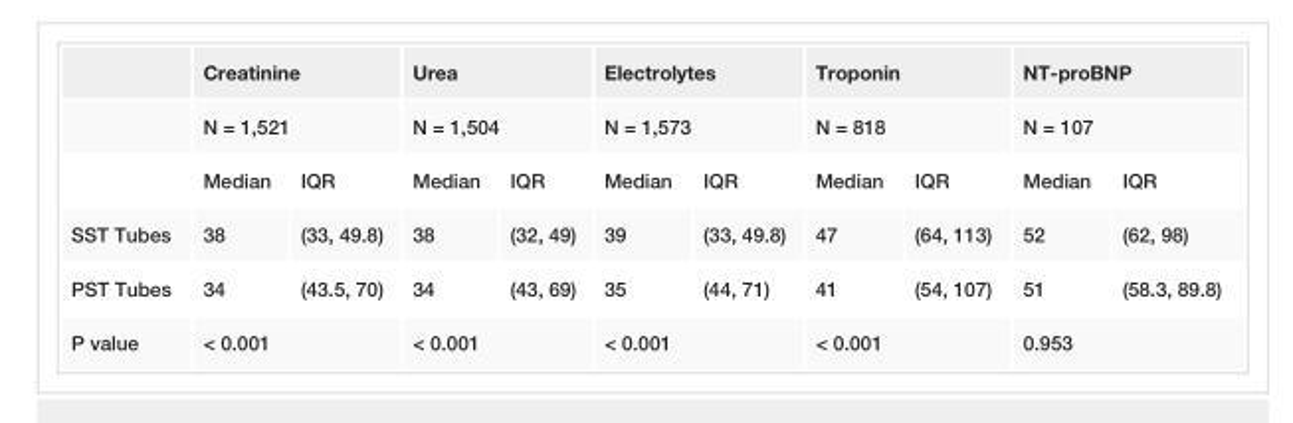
<table><thead><tr><td rowspan="3"></td><td rowspan="2" colspan="2">Creatinine N = 1,521</td><td rowspan="2" colspan="2">Urea N = 1,504</td><td rowspan="2" colspan="2">Electrolytes N = 1,573</td><td rowspan="2" colspan="2">Troponin N = 818</td><td rowspan="2" colspan="2">NT-proBNP N = 107</td></tr><tr></tr><tr><td>Median</td><td>IQR</td><td>Median</td><td>IQR</td><td>Median</td><td>IQR</td><td>Median</td><td>IQR</td><td>Median</td><td>IQR</td></tr></thead><tbody><tr><td>SST Tubes</td><td>38</td><td>(33, 49.8)</td><td>38</td><td>(32, 49)</td><td>39</td><td>(33, 49.8)</td><td>47</td><td>(64, 113)</td><td>52</td><td>(62, 98)</td></tr><tr><td>PST Tubes</td><td>34</td><td>(43.5, 70)</td><td>34</td><td>(43, 69)</td><td>35</td><td>(44, 71)</td><td>41</td><td>(54, 107)</td><td>51</td><td>(58.3, 89.8)</td></tr><tr><td>P value</td><td colspan="2">&lt; 0.001</td><td colspan="2">&lt; 0.001</td><td colspan="2">&lt; 0.001</td><td colspan="2">&lt; 0.001</td><td colspan="2">0.953</td></tr></tbody></table>